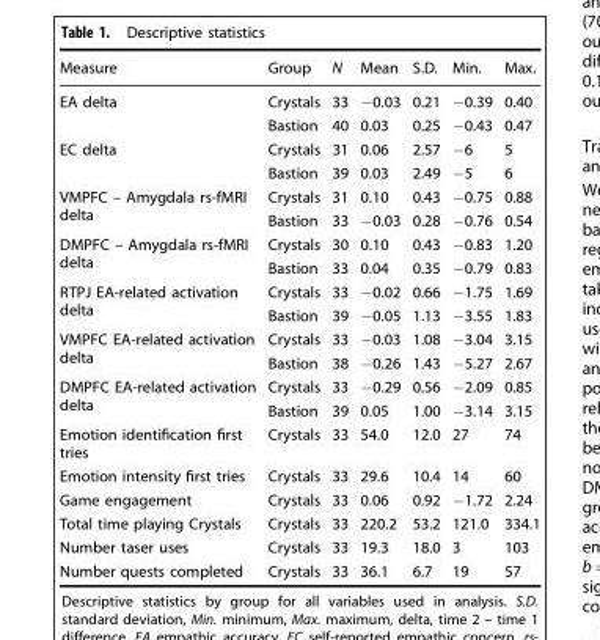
<table><thead><tr><td>Measure</td><td>Group</td><td>N</td><td>Mean</td><td>S.D.</td><td>Min.</td><td>Max.</td></tr></thead><tbody><tr><td rowspan="2">EA delta</td><td>Crystals</td><td>33</td><td>−0.03</td><td>0.21</td><td>−0.39</td><td>0.40</td></tr><tr><td>Bastion</td><td>40</td><td>0.03</td><td>0.25</td><td>−0.43</td><td>0.47</td></tr><tr><td rowspan="2">EC delta</td><td>Crystals</td><td>31</td><td>0.06</td><td>2.57</td><td>−6</td><td>5</td></tr><tr><td>Bastion</td><td>39</td><td>0.03</td><td>2.49</td><td>−5</td><td>6</td></tr><tr><td rowspan="2">VMPFC – Amygdala rs-fMRI delta</td><td>Crystals</td><td>31</td><td>0.10</td><td>0.43</td><td>−0.75</td><td>0.88</td></tr><tr><td>Bastion</td><td>33</td><td>−0.03</td><td>0.28</td><td>−0.76</td><td>0.54</td></tr><tr><td rowspan="2">DMPFC – Amygdala rs-fMRI delta</td><td>Crystals</td><td>30</td><td>0.10</td><td>0.43</td><td>−0.83</td><td>1.20</td></tr><tr><td>Bastion</td><td>33</td><td>0.04</td><td>0.35</td><td>−0.79</td><td>0.83</td></tr><tr><td rowspan="2">RTPJ EA-related activation delta</td><td>Crystals</td><td>33</td><td>−0.02</td><td>0.66</td><td>−1.75</td><td>1.69</td></tr><tr><td>Bastion</td><td>39</td><td>−0.05</td><td>1.13</td><td>−3.55</td><td>1.83</td></tr><tr><td rowspan="2">VMPFC EA-related activation delta</td><td>Crystals</td><td>33</td><td>−0.03</td><td>1.08</td><td>−3.04</td><td>3.15</td></tr><tr><td>Bastion</td><td>38</td><td>−0.26</td><td>1.43</td><td>−5.27</td><td>2.67</td></tr><tr><td rowspan="2">DMPFC EA-related activation delta</td><td>Crystals</td><td>33</td><td>−0.29</td><td>0.56</td><td>−2.09</td><td>0.85</td></tr><tr><td>Bastion</td><td>39</td><td>0.05</td><td>1.00</td><td>−3.14</td><td>3.15</td></tr><tr><td>Emotion identification first tries</td><td>Crystals</td><td>33</td><td>54.0</td><td>12.0</td><td>27</td><td>74</td></tr><tr><td>Emotion intensity first tries</td><td>Crystals</td><td>33</td><td>29.6</td><td>10.4</td><td>14</td><td>60</td></tr><tr><td>Game engagement</td><td>Crystals</td><td>33</td><td>0.06</td><td>0.92</td><td>−1.72</td><td>2.24</td></tr><tr><td>Total time playing Crystals</td><td>Crystals</td><td>33</td><td>220.2</td><td>53.2</td><td>121.0</td><td>334.1</td></tr><tr><td>Number taser uses</td><td>Crystals</td><td>33</td><td>19.3</td><td>18.0</td><td>3</td><td>103</td></tr><tr><td>Number quests completed</td><td>Crystals</td><td>33</td><td>36.1</td><td>6.7</td><td>19</td><td>57</td></tr></tbody></table>